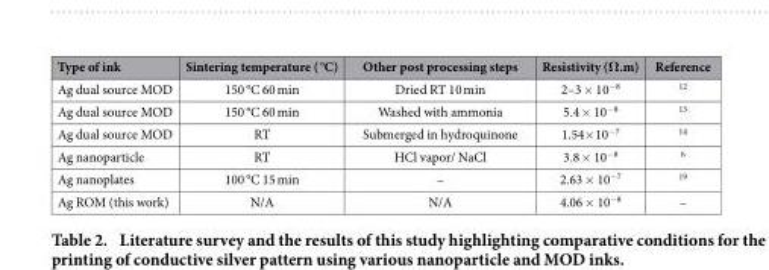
<table><thead><tr><td>Type of ink</td><td>Sintering temperature ( °C)</td><td>Other post processing steps</td><td>Resistivity (Ω.m)</td><td>Reference</td></tr></thead><tbody><tr><td>Ag dual source MOD</td><td>150 °C 60 min</td><td>Dried RT 10 min</td><td>2–3 × 10<sup>−8</sup></td><td>12</td></tr><tr><td>Ag dual source MOD</td><td>150 °C 60 min</td><td>Washed with ammonia</td><td>5.4 × 10<sup>−8</sup></td><td>13</td></tr><tr><td>Ag dual source MOD</td><td>RT</td><td>Submerged in hydroquinone</td><td>1.54× 10<sup>−7</sup></td><td>14</td></tr><tr><td>Ag nanoparticle</td><td>RT</td><td>HCl vapor/ NaCl</td><td>3.8 × 10<sup>−8</sup></td><td>6</td></tr><tr><td>Ag nanoplates</td><td>100 °C 15 min</td><td>–</td><td>2.63 × 10<sup>−7</sup></td><td>19</td></tr><tr><td>Ag ROM (this work)</td><td>N/A</td><td>N/A</td><td>4.06 × 10<sup>−8</sup></td><td>–</td></tr></tbody></table>